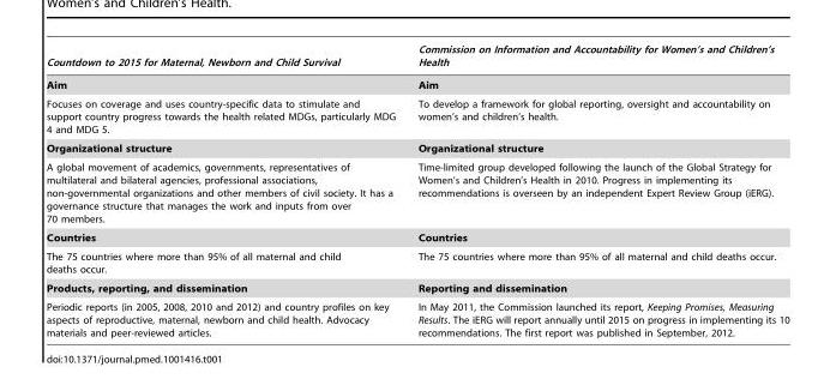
<table><thead><tr><td>Countdown to 2015 for Maternal, Newborn and Child Survival</td><td>Commission on Information and Accountability for Women’s and Children’s Health</td></tr></thead><tbody><tr><td>Aim</td><td>Aim</td></tr><tr><td>Focuses on coverage and uses country-specific data to stimulate and support country progress towards the health related MDGs, particularly MDG 4 and MDG 5.</td><td>To develop a framework for global reporting, oversight and accountability on women’s and children’s health.</td></tr><tr><td>Organizational structure</td><td>Organizational structure</td></tr><tr><td>A global movement of academics, governments, representatives of multilateral and bilateral agencies, professional associations, non-governmental organizations and other members of civil society. It has a governance structure that manages the work and inputs from over 70 members.</td><td>Time-limited group developed following the launch of the Global Strategy for Women’s and Children’s Health in 2010. Progress in implementing its recommendations is overseen by an independent Expert Review Group (iERG).</td></tr><tr><td>Countries</td><td>Countries</td></tr><tr><td>The 75 countries where more than 95% of all maternal and child deaths occur.</td><td>The 75 countries where more than 95% of all maternal and child deaths occur.</td></tr><tr><td>Products, reporting, and dissemination</td><td>Reporting and dissemination</td></tr><tr><td>Periodic reports (in 2005, 2008, 2010 and 2012) and country profiles on key aspects of reproductive, maternal, newborn and child health. Advocacy materials and peer-reviewed articles.</td><td>In May 2011, the Commission launched its report, Keeping Promises, Measuring Results. The iERG will report annually until 2015 on progress in implementing its 10 recommendations. The first report was published in September, 2012.</td></tr></tbody></table>